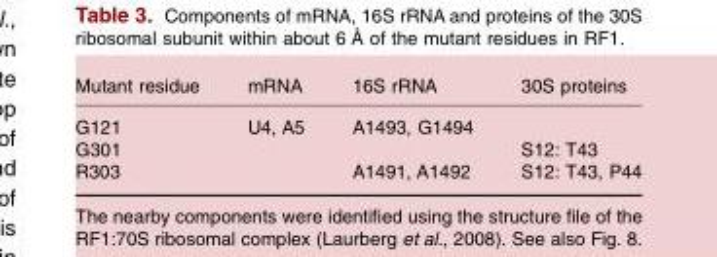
<table><thead><tr><td>Mutant residue</td><td>mRNA</td><td>16S rRNA</td><td>30S proteins</td></tr></thead><tbody><tr><td>G121</td><td>U4, A5</td><td>A1493, G1494</td><td></td></tr><tr><td>G301</td><td></td><td></td><td>S12: T43</td></tr><tr><td>R303</td><td></td><td>A1491, A1492</td><td>S12: T43, P44</td></tr></tbody></table>